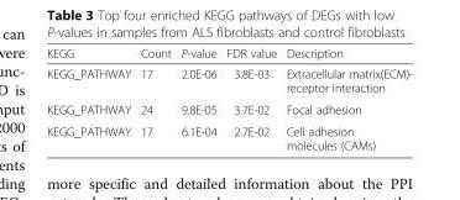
<table><thead><tr><td>KEGG</td><td>Count</td><td>P-value</td><td>FDR value</td><td>Description</td></tr></thead><tbody><tr><td>KEGG_PATHWAY</td><td>17</td><td>2.0E-06</td><td>3.8E-03</td><td>Extracellular matrix(ECM)- receptor interaction</td></tr><tr><td>KEGG_PATHWAY</td><td>24</td><td>9.8E-05</td><td>3.7E-02</td><td>Focal adhesion</td></tr><tr><td>KEGG_PATHWAY</td><td>17</td><td>6.1E-04</td><td>2.7E-02</td><td>Cell adhesion molecules (CAMs)</td></tr></tbody></table>